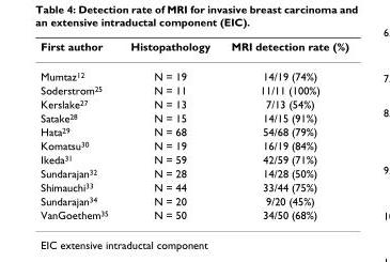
<table><thead><tr><td>First author</td><td>Histopathology</td><td>MRI detection rate (%)</td></tr></thead><tbody><tr><td>Mumtaz<sup>12</sup></td><td>N = 19</td><td>14/19 (74%)</td></tr><tr><td>Soderstrom<sup>25</sup></td><td>N = 11</td><td>11/11 (100%)</td></tr><tr><td>Kerslake<sup>27</sup></td><td>N = 13</td><td>7/13 (54%)</td></tr><tr><td>Satake<sup>28</sup></td><td>N = 15</td><td>14/15 (91%)</td></tr><tr><td>Hata<sup>29</sup></td><td>N = 68</td><td>54/68 (79%)</td></tr><tr><td>Komatsu<sup>30</sup></td><td>N = 19</td><td>16/19 (84%)</td></tr><tr><td>Ikeda<sup>31</sup></td><td>N = 59</td><td>42/59 (71%)</td></tr><tr><td>Sundarajan<sup>32</sup></td><td>N = 28</td><td>14/28 (50%)</td></tr><tr><td>Shimauchi<sup>33</sup></td><td>N = 44</td><td>33/44 (75%)</td></tr><tr><td>Sundarajan<sup>34</sup></td><td>N = 20</td><td>9/20 (45%)</td></tr><tr><td>VanGoethem<sup>35</sup></td><td>N = 50</td><td>34/50 (68%)</td></tr></tbody></table>